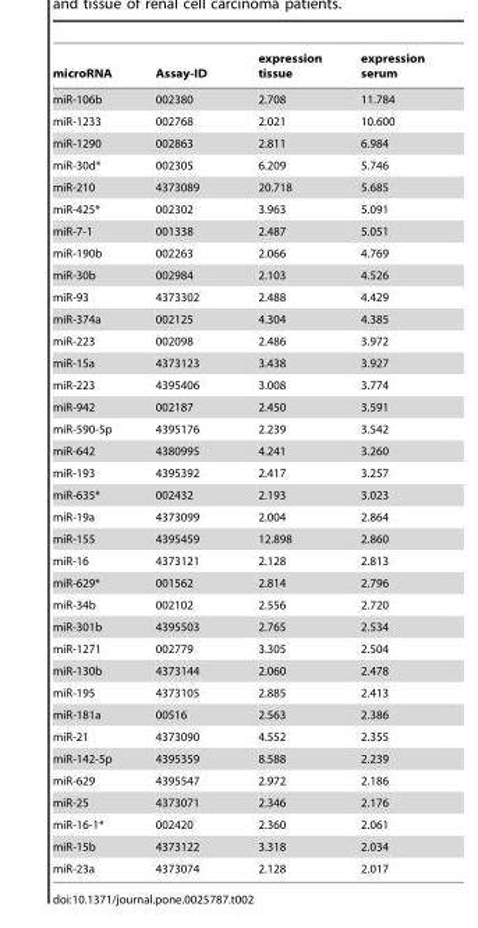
<table><thead><tr><td>microRNA</td><td>Assay-ID</td><td>expression tissue</td><td>expression serum</td></tr></thead><tbody><tr><td>miR-106b</td><td>002380</td><td>2.708</td><td>11.784</td></tr><tr><td>miR-1233</td><td>002768</td><td>2.021</td><td>10.600</td></tr><tr><td>miR-1290</td><td>002863</td><td>2.811</td><td>6.984</td></tr><tr><td>miR-30d*</td><td>002305</td><td>6.209</td><td>5.746</td></tr><tr><td>miR-210</td><td>4373089</td><td>20.718</td><td>5.685</td></tr><tr><td>miR-425*</td><td>002302</td><td>3.963</td><td>5.091</td></tr><tr><td>miR-7-1</td><td>001338</td><td>2.487</td><td>5.051</td></tr><tr><td>miR-190b</td><td>002263</td><td>2.066</td><td>4.769</td></tr><tr><td>miR-30b</td><td>002984</td><td>2.103</td><td>4.526</td></tr><tr><td>miR-93</td><td>4373302</td><td>2.488</td><td>4.429</td></tr><tr><td>miR-374a</td><td>002125</td><td>4.304</td><td>4.385</td></tr><tr><td>miR-223</td><td>002098</td><td>2.486</td><td>3.972</td></tr><tr><td>miR-15a</td><td>4373123</td><td>3.438</td><td>3.927</td></tr><tr><td>miR-223</td><td>4395406</td><td>3.008</td><td>3.774</td></tr><tr><td>miR-942</td><td>002187</td><td>2.450</td><td>3.591</td></tr><tr><td>miR-590-5p</td><td>4395176</td><td>2.239</td><td>3.542</td></tr><tr><td>miR-642</td><td>4380995</td><td>4.241</td><td>3.260</td></tr><tr><td>miR-193</td><td>4395392</td><td>2.417</td><td>3.257</td></tr><tr><td>miR-635*</td><td>002432</td><td>2.193</td><td>3.023</td></tr><tr><td>miR-19a</td><td>4373099</td><td>2.004</td><td>2.864</td></tr><tr><td>miR-155</td><td>4395459</td><td>12.898</td><td>2.860</td></tr><tr><td>miR-16</td><td>4373121</td><td>2.128</td><td>2.813</td></tr><tr><td>miR-629*</td><td>001562</td><td>2.814</td><td>2.796</td></tr><tr><td>miR-34b</td><td>002102</td><td>2.556</td><td>2.720</td></tr><tr><td>miR-301b</td><td>4395503</td><td>2.765</td><td>2.534</td></tr><tr><td>miR-1271</td><td>002779</td><td>3.305</td><td>2.504</td></tr><tr><td>miR-130b</td><td>4373144</td><td>2.060</td><td>2.478</td></tr><tr><td>miR-195</td><td>4373105</td><td>2.885</td><td>2.413</td></tr><tr><td>miR-181a</td><td>00516</td><td>2.563</td><td>2.386</td></tr><tr><td>miR-21</td><td>4373090</td><td>4.552</td><td>2.355</td></tr><tr><td>miR-142-5p</td><td>4395359</td><td>8.588</td><td>2.239</td></tr><tr><td>miR-629</td><td>4395547</td><td>2.972</td><td>2.186</td></tr><tr><td>miR-25</td><td>4373071</td><td>2.346</td><td>2.176</td></tr><tr><td>miR-16-1*</td><td>002420</td><td>2.360</td><td>2.061</td></tr><tr><td>miR-15b</td><td>4373122</td><td>3.318</td><td>2.034</td></tr><tr><td>miR-23a</td><td>4373074</td><td>2.128</td><td>2.017</td></tr></tbody></table>